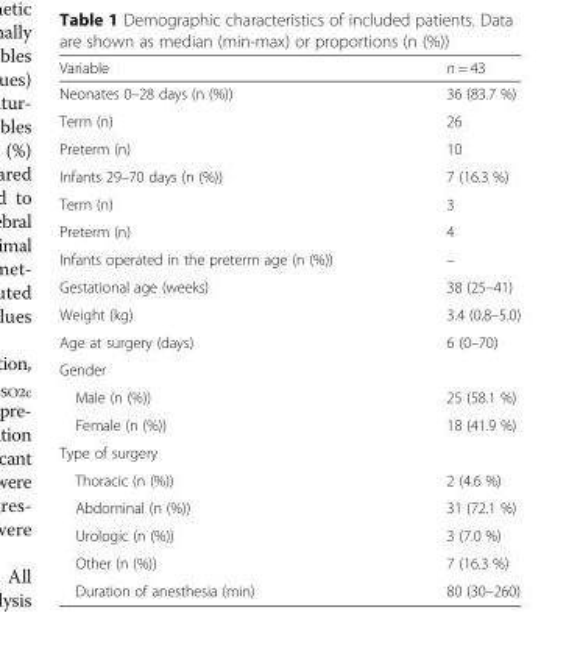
<table><thead><tr><td>Variable</td><td>n = 43</td></tr></thead><tbody><tr><td>Neonates 0–28 days (n (%))</td><td>36 (83.7 %)</td></tr><tr><td>Term (n)</td><td>26</td></tr><tr><td>Preterm (n)</td><td>10</td></tr><tr><td>Infants 29–70 days (n (%))</td><td>7 (16.3 %)</td></tr><tr><td>Term (n)</td><td>3</td></tr><tr><td>Preterm (n)</td><td>4</td></tr><tr><td>Infants operated in the preterm age (n (%))</td><td>–</td></tr><tr><td>Gestational age (weeks)</td><td>38 (25–41)</td></tr><tr><td>Weight (kg)</td><td>3.4 (0.8–5.0)</td></tr><tr><td>Age at surgery (days)</td><td>6 (0–70)</td></tr><tr><td colspan="2">Gender</td></tr><tr><td>Male (n (%))</td><td>25 (58.1 %)</td></tr><tr><td>Female (n (%))</td><td>18 (41.9 %)</td></tr><tr><td colspan="2">Type of surgery</td></tr><tr><td>Thoracic (n (%))</td><td>2 (4.6 %)</td></tr><tr><td>Abdominal (n (%))</td><td>31 (72.1 %)</td></tr><tr><td>Urologic (n (%))</td><td>3 (7.0 %)</td></tr><tr><td>Other (n (%))</td><td>7 (16.3 %)</td></tr><tr><td>Duration of anesthesia (min)</td><td>80 (30–260)</td></tr></tbody></table>